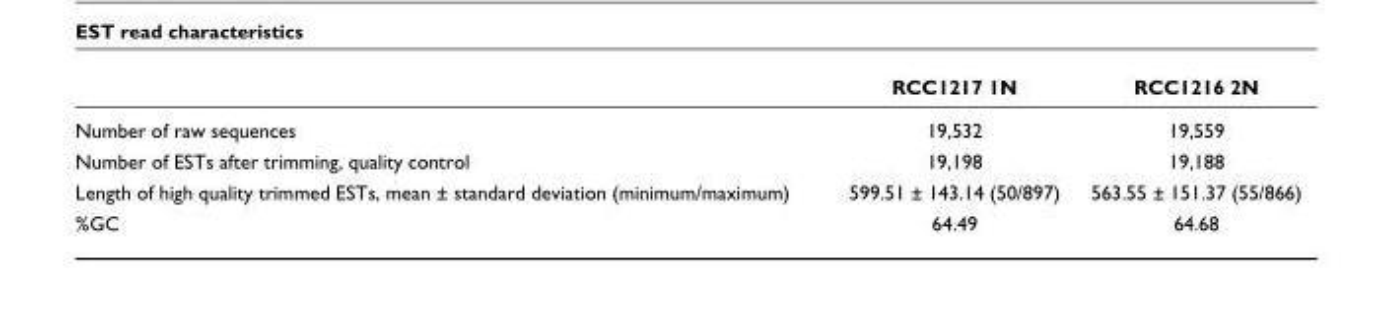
<table><thead><tr><td></td><td>RCC1217 1N</td><td>RCC1216 2N</td></tr></thead><tbody><tr><td>Number of raw sequences</td><td>19,532</td><td>19,559</td></tr><tr><td>Number of ESTs after trimming, quality control</td><td>19,198</td><td>19,188</td></tr><tr><td>Length of high quality trimmed ESTs, mean ± standard deviation (minimum/maximum)</td><td>599.51 ± 143.14 (50/897)</td><td>563.55 ± 151.37 (55/866)</td></tr><tr><td>%GC</td><td>64.49</td><td>64.68</td></tr></tbody></table>